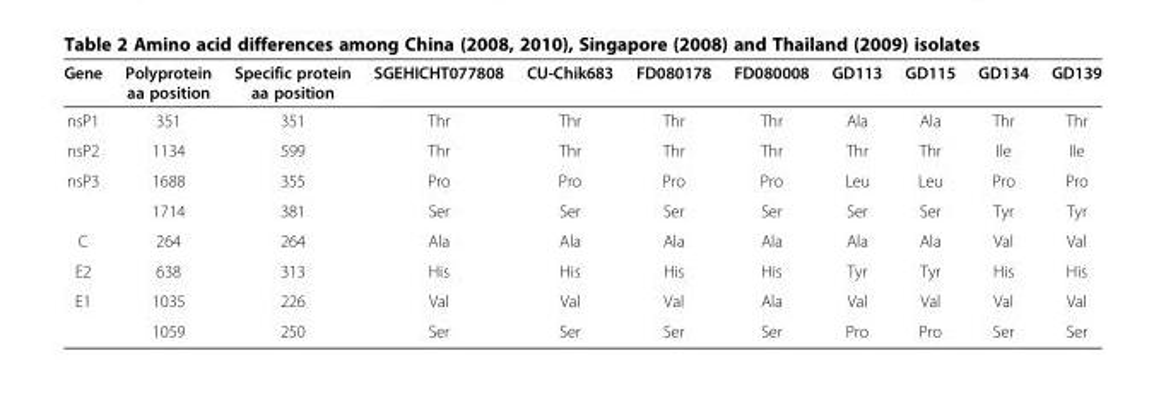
<table><thead><tr><td>Gene</td><td>Polyprotein aa position</td><td>Specific protein aa position</td><td>SGEHICHT077808</td><td>CU-Chik683</td><td>FD080178</td><td>FD080008</td><td>GD113</td><td>GD115</td><td>GD134</td><td>GD139</td></tr></thead><tbody><tr><td>nsP1</td><td>351</td><td>351</td><td>Thr</td><td>Thr</td><td>Thr</td><td>Thr</td><td>Ala</td><td>Ala</td><td>Thr</td><td>Thr</td></tr><tr><td>nsP2</td><td>1134</td><td>599</td><td>Thr</td><td>Thr</td><td>Thr</td><td>Thr</td><td>Thr</td><td>Thr</td><td>Ile</td><td>Ile</td></tr><tr><td rowspan="2">nsP3</td><td>1688</td><td>355</td><td>Pro</td><td>Pro</td><td>Pro</td><td>Pro</td><td>Leu</td><td>Leu</td><td>Pro</td><td>Pro</td></tr><tr><td>1714</td><td>381</td><td>Ser</td><td>Ser</td><td>Ser</td><td>Ser</td><td>Ser</td><td>Ser</td><td>Tyr</td><td>Tyr</td></tr><tr><td>C</td><td>264</td><td>264</td><td>Ala</td><td>Ala</td><td>Ala</td><td>Ala</td><td>Ala</td><td>Ala</td><td>Val</td><td>Val</td></tr><tr><td>E2</td><td>638</td><td>313</td><td>His</td><td>His</td><td>His</td><td>His</td><td>Tyr</td><td>Tyr</td><td>His</td><td>His</td></tr><tr><td rowspan="2">E1</td><td>1035</td><td>226</td><td>Val</td><td>Val</td><td>Val</td><td>Ala</td><td>Val</td><td>Val</td><td>Val</td><td>Val</td></tr><tr><td>1059</td><td>250</td><td>Ser</td><td>Ser</td><td>Ser</td><td>Ser</td><td>Pro</td><td>Pro</td><td>Ser</td><td>Ser</td></tr></tbody></table>